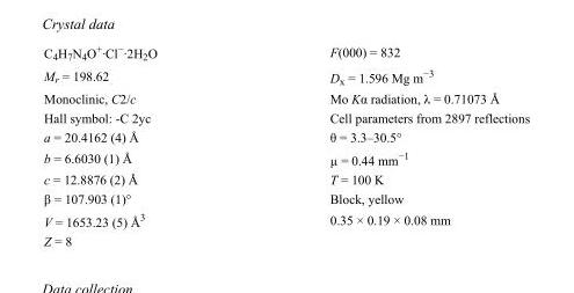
<table><tbody><tr><td>C<sub>4</sub>H<sub>7</sub>N<sub>4</sub>O<sup>+</sup>·Cl<sup>−</sup>·2H<sub>2</sub>O</td><td>F(000) = 832</td></tr><tr><td>M<sub>r</sub> = 198.62</td><td>D<sub>x</sub> = 1.596 Mg m<sup>−3</sup></td></tr><tr><td>Monoclinic, C2/c</td><td>Mo Kα radiation, λ = 0.71073 Å</td></tr><tr><td>Hall symbol: -C 2yc</td><td>Cell parameters from 2897 reflections</td></tr><tr><td>a = 20.4162 (4) Å</td><td>θ = 3.3–30.5°</td></tr><tr><td>b = 6.6030 (1) Å</td><td>µ = 0.44 mm<sup>−1</sup></td></tr><tr><td>c = 12.8876 (2) Å</td><td>T = 100 K</td></tr><tr><td>β = 107.903 (1)°</td><td>Block, yellow</td></tr><tr><td>V = 1653.23 (5) Å<sup>3</sup></td><td>0.35 × 0.19 × 0.08 mm</td></tr><tr><td>Z = 8</td><td></td></tr></tbody></table>